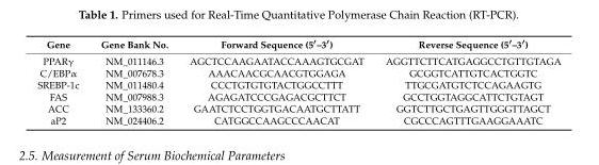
<table><thead><tr><td>Gene</td><td>Gene Bank No.</td><td>Forward Sequence (5′–3′)</td><td>Reverse Sequence (5′–3′)</td></tr></thead><tbody><tr><td>PPARγ</td><td>NM_011146.3</td><td>AGCTCCAAGAATACCAAAGTGCGAT</td><td>AGGTTCTTCATGAGGCCTGTTGTAGA</td></tr><tr><td>C/EBPα</td><td>NM_007678.3</td><td>AAACAACGCAACGTGGAGA</td><td>GCGGTCATTGTCACTGGTC</td></tr><tr><td>SREBP-1c</td><td>NM_011480.4</td><td>CCCTGTGTGTACTGGCCTTT</td><td>TTGCGATGTCTCCAGAAGTG</td></tr><tr><td>FAS</td><td>NM_007988.3</td><td>AGAGATCCCGAGACGCTTCT</td><td>GCCTGGTAGGCATTCTGTAGT</td></tr><tr><td>ACC</td><td>NM_133360.2</td><td>GAATCTCCTGGTGACAATGCTTATT</td><td>GGTCTTGCTGAGTTGGGTTAGCT</td></tr><tr><td>aP2</td><td>NM_024406.2</td><td>CATGGCCAAGCCCAACAT</td><td>CGCCCAGTTTGAAGGAAATC</td></tr></tbody></table>